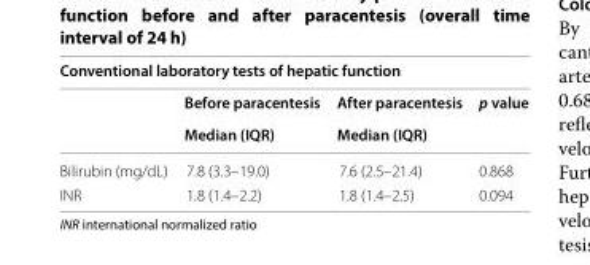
<table><thead><tr><td colspan="4">Conventional laboratory tests of hepatic function</td></tr><tr><td rowspan="2"></td><td rowspan="2">Before paracentesis Median (IQR)</td><td rowspan="2">After paracentesis Median (IQR)</td><td rowspan="2">p value</td></tr><tr></tr></thead><tbody><tr><td>Bilirubin (mg/dL)</td><td>7.8 (3.3–19.0)</td><td>7.6 (2.5–21.4)</td><td>0.868</td></tr><tr><td>INR</td><td>1.8 (1.4–2.2)</td><td>1.8 (1.4–2.5)</td><td>0.094</td></tr></tbody></table>